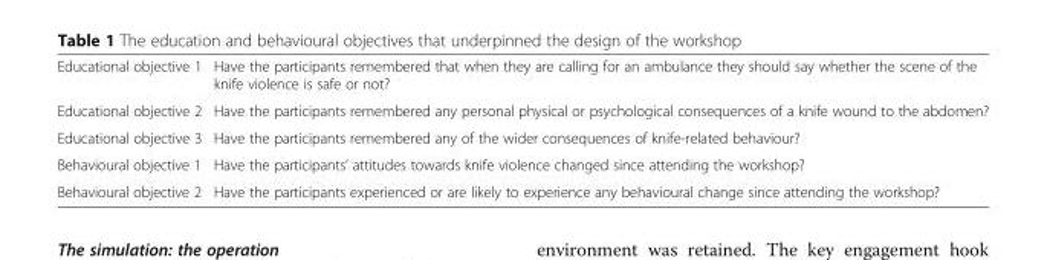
<table><tbody><tr><td>Educational objective 1</td><td>Have the participants remembered that when they are calling for an ambulance they should say whether the scene of the knife violence is safe or not?</td></tr><tr><td>Educational objective 2</td><td>Have the participants remembered any personal physical or psychological consequences of a knife wound to the abdomen?</td></tr><tr><td>Educational objective 3</td><td>Have the participants remembered any of the wider consequences of knife-related behaviour?</td></tr><tr><td>Behavioural objective 1</td><td>Have the participants’ attitudes towards knife violence changed since attending the workshop?</td></tr><tr><td>Behavioural objective 2</td><td>Have the participants experienced or are likely to experience any behavioural change since attending the workshop?</td></tr></tbody></table>